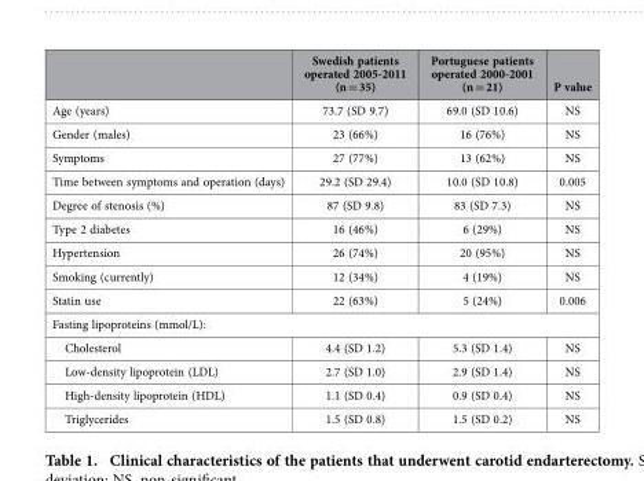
<table><thead><tr><td></td><td>Swedish patients operated 2005-2011 (n = 35)</td><td>Portuguese patients operated 2000-2001 (n = 21)</td><td>P value</td></tr></thead><tbody><tr><td>Age (years)</td><td>73.7 (SD 9.7)</td><td>69.0 (SD 10.6)</td><td>NS</td></tr><tr><td>Gender (males)</td><td>23 (66%)</td><td>16 (76%)</td><td>NS</td></tr><tr><td>Symptoms</td><td>27 (77%)</td><td>13 (62%)</td><td>NS</td></tr><tr><td>Time between symptoms and operation (days)</td><td>29.2 (SD 29.4)</td><td>10.0 (SD 10.8)</td><td>0.005</td></tr><tr><td>Degree of stenosis (%)</td><td>87 (SD 9.8)</td><td>83 (SD 7.3)</td><td>NS</td></tr><tr><td>Type 2 diabetes</td><td>16 (46%)</td><td>6 (29%)</td><td>NS</td></tr><tr><td>Hypertension</td><td>26 (74%)</td><td>20 (95%)</td><td>NS</td></tr><tr><td>Smoking (currently)</td><td>12 (34%)</td><td>4 (19%)</td><td>NS</td></tr><tr><td>Statin use</td><td>22 (63%)</td><td>5 (24%)</td><td>0.006</td></tr><tr><td colspan="4">Fasting lipoproteins (mmol/L):</td></tr><tr><td>Cholesterol</td><td>4.4 (SD 1.2)</td><td>5.3 (SD 1.4)</td><td>NS</td></tr><tr><td>Low-density lipoprotein (LDL)</td><td>2.7 (SD 1.0)</td><td>2.9 (SD 1.4)</td><td>NS</td></tr><tr><td>High-density lipoprotein (HDL)</td><td>1.1 (SD 0.4)</td><td>0.9 (SD 0.4)</td><td>NS</td></tr><tr><td>Triglycerides</td><td>1.5 (SD 0.8)</td><td>1.5 (SD 0.2)</td><td>NS</td></tr></tbody></table>